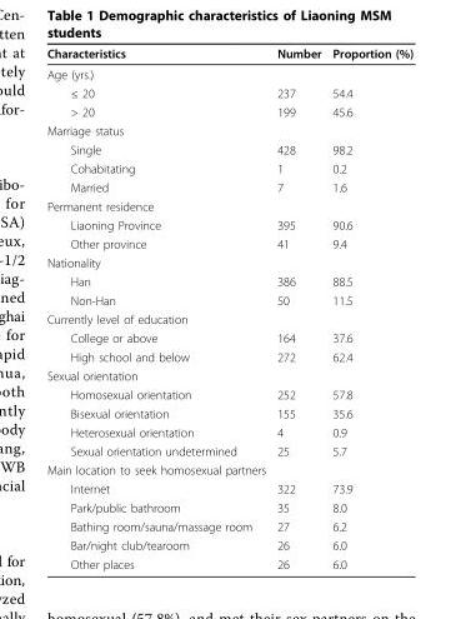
<table><thead><tr><td>Characteristics</td><td>Number</td><td>Proportion (%)</td></tr></thead><tbody><tr><td colspan="3">Age (yrs.)</td></tr><tr><td>≤ 20</td><td>237</td><td>54.4</td></tr><tr><td>&gt; 20</td><td>199</td><td>45.6</td></tr><tr><td colspan="3">Marriage status</td></tr><tr><td>Single</td><td>428</td><td>98.2</td></tr><tr><td>Cohabitating</td><td>1</td><td>0.2</td></tr><tr><td>Married</td><td>7</td><td>1.6</td></tr><tr><td colspan="3">Permanent residence</td></tr><tr><td>Liaoning Province</td><td>395</td><td>90.6</td></tr><tr><td>Other province</td><td>41</td><td>9.4</td></tr><tr><td colspan="3">Nationality</td></tr><tr><td>Han</td><td>386</td><td>88.5</td></tr><tr><td>Non-Han</td><td>50</td><td>11.5</td></tr><tr><td colspan="3">Currently level of education</td></tr><tr><td>College or above</td><td>164</td><td>37.6</td></tr><tr><td>High school and below</td><td>272</td><td>62.4</td></tr><tr><td colspan="3">Sexual orientation</td></tr><tr><td>Homosexual orientation</td><td>252</td><td>57.8</td></tr><tr><td>Bisexual orientation</td><td>155</td><td>35.6</td></tr><tr><td>Heterosexual orientation</td><td>4</td><td>0.9</td></tr><tr><td>Sexual orientation undetermined</td><td>25</td><td>5.7</td></tr><tr><td colspan="3">Main location to seek homosexual partners</td></tr><tr><td>Internet</td><td>322</td><td>73.9</td></tr><tr><td>Park/public bathroom</td><td>35</td><td>8.0</td></tr><tr><td>Bathing room/sauna/massage room</td><td>27</td><td>6.2</td></tr><tr><td>Bar/night club/tearoom</td><td>26</td><td>6.0</td></tr><tr><td>Other places</td><td>26</td><td>6.0</td></tr></tbody></table>